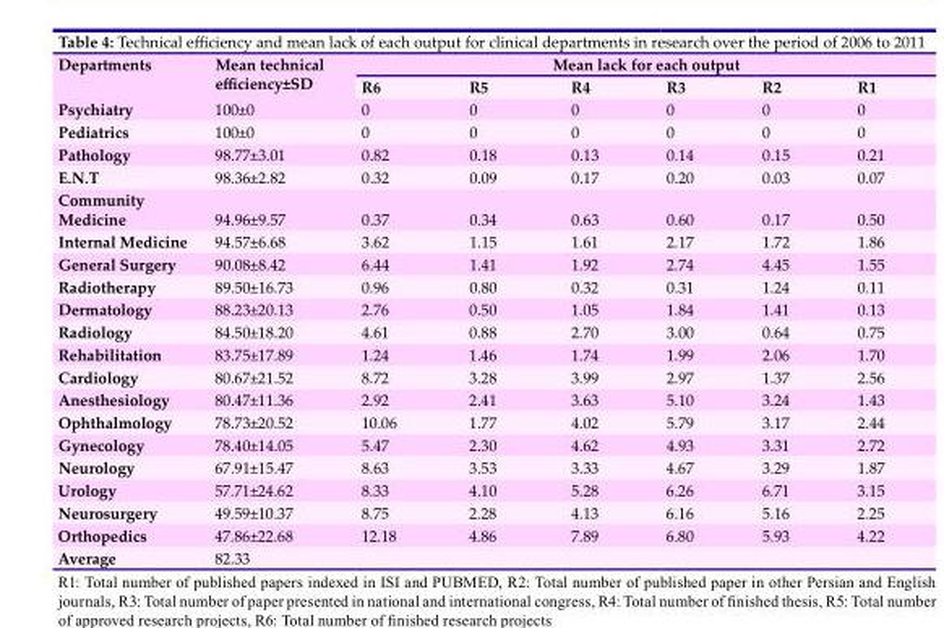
<table><thead><tr><td rowspan="2">Departments</td><td rowspan="2">Mean technical efficiency±SD</td><td colspan="6">Mean lack for each output</td></tr><tr><td>R6</td><td>R5</td><td>R4</td><td>R3</td><td>R2</td><td>R1</td></tr></thead><tbody><tr><td>Psychiatry</td><td>100±0</td><td>0</td><td>0</td><td>0</td><td>0</td><td>0</td><td>0</td></tr><tr><td>Pediatrics</td><td>100±0</td><td>0</td><td>0</td><td>0</td><td>0</td><td>0</td><td>0</td></tr><tr><td>Pathology</td><td>98.77±3.01</td><td>0.82</td><td>0.18</td><td>0.13</td><td>0.14</td><td>0.15</td><td>0.21</td></tr><tr><td>E.N.T</td><td>98.36±2.82</td><td>0.32</td><td>0.09</td><td>0.17</td><td>0.20</td><td>0.03</td><td>0.07</td></tr><tr><td>Community Medicine</td><td>94.96±9.57</td><td>0.37</td><td>0.34</td><td>0.63</td><td>0.60</td><td>0.17</td><td>0.50</td></tr><tr><td>Internal Medicine</td><td>94.57±6.68</td><td>3.62</td><td>1.15</td><td>1.61</td><td>2.17</td><td>1.72</td><td>1.86</td></tr><tr><td>General Surgery</td><td>90.08±8.42</td><td>6.44</td><td>1.41</td><td>1.92</td><td>2.74</td><td>4.45</td><td>1.55</td></tr><tr><td>Radiotherapy</td><td>89.50±16.73</td><td>0.96</td><td>0.80</td><td>0.32</td><td>0.31</td><td>1.24</td><td>0.11</td></tr><tr><td>Dermatology</td><td>88.23±20.13</td><td>2.76</td><td>0.50</td><td>1.05</td><td>1.84</td><td>1.41</td><td>0.13</td></tr><tr><td>Radiology</td><td>84.50±18.20</td><td>4.61</td><td>0.88</td><td>2.70</td><td>3.00</td><td>0.64</td><td>0.75</td></tr><tr><td>Rehabilitation</td><td>83.75±17.89</td><td>1.24</td><td>1.46</td><td>1.74</td><td>1.99</td><td>2.06</td><td>1.70</td></tr><tr><td>Cardiology</td><td>80.67±21.52</td><td>8.72</td><td>3.28</td><td>3.99</td><td>2.97</td><td>1.37</td><td>2.56</td></tr><tr><td>Anesthesiology</td><td>80.47±11.36</td><td>2.92</td><td>2.41</td><td>3.63</td><td>5.10</td><td>3.24</td><td>1.43</td></tr><tr><td>Ophthalmology</td><td>78.73±20.52</td><td>10.06</td><td>1.77</td><td>4.02</td><td>5.79</td><td>3.17</td><td>2.44</td></tr><tr><td>Gynecology</td><td>78.40±14.05</td><td>5.47</td><td>2.30</td><td>4.62</td><td>4.93</td><td>3.31</td><td>2.72</td></tr><tr><td>Neurology</td><td>67.91±15.47</td><td>8.63</td><td>3.53</td><td>3.33</td><td>4.67</td><td>3.29</td><td>1.87</td></tr><tr><td>Urology</td><td>57.71±24.62</td><td>8.33</td><td>4.10</td><td>5.28</td><td>6.26</td><td>6.71</td><td>3.15</td></tr><tr><td>Neurosurgery</td><td>49.59±10.37</td><td>8.75</td><td>2.28</td><td>4.13</td><td>6.16</td><td>5.16</td><td>2.25</td></tr><tr><td>Orthopedics</td><td>47.86±22.68</td><td>12.18</td><td>4.86</td><td>7.89</td><td>6.80</td><td>5.93</td><td>4.22</td></tr><tr><td>Average</td><td>82.33</td><td></td><td></td><td></td><td></td><td></td><td></td></tr></tbody></table>